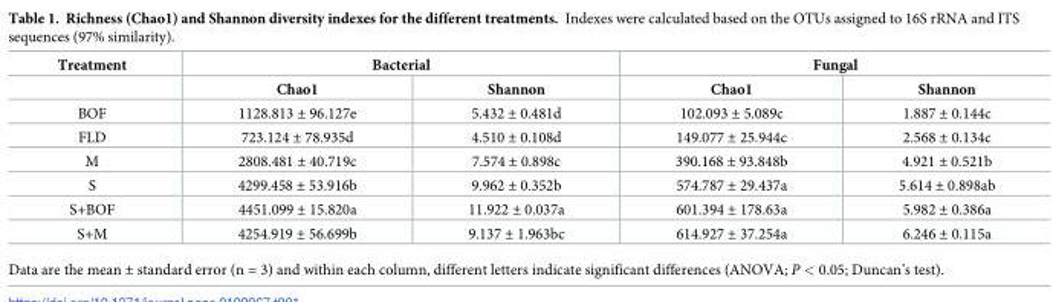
<table><thead><tr><td rowspan="2">Treatment</td><td colspan="2">Bacterial</td><td colspan="2">Fungal</td></tr><tr><td>Chao1</td><td>Shannon</td><td>Chao1</td><td>Shannon</td></tr></thead><tbody><tr><td>BOF</td><td>1128.813 ± 96.127e</td><td>5.432 ± 0.481d</td><td>102.093 ± 5.089c</td><td>1.887 ± 0.144c</td></tr><tr><td>FLD</td><td>723.124 ± 78.935d</td><td>4.510 ± 0.108d</td><td>149.077 ± 25.944c</td><td>2.568 ± 0.134c</td></tr><tr><td>M</td><td>2808.481 ± 40.719c</td><td>7.574 ± 0.898c</td><td>390.168 ± 93.848b</td><td>4.921 ± 0.521b</td></tr><tr><td>S</td><td>4299.458 ± 53.916b</td><td>9.962 ± 0.352b</td><td>574.787 ± 29.437a</td><td>5.614 ± 0.898ab</td></tr><tr><td>S+BOF</td><td>4451.099 ± 15.820a</td><td>11.922 ± 0.037a</td><td>601.394 ± 178.63a</td><td>5.982 ± 0.386a</td></tr><tr><td>S+M</td><td>4254.919 ± 56.699b</td><td>9.137 ± 1.963bc</td><td>614.927 ± 37.254a</td><td>6.246 ± 0.115a</td></tr></tbody></table>